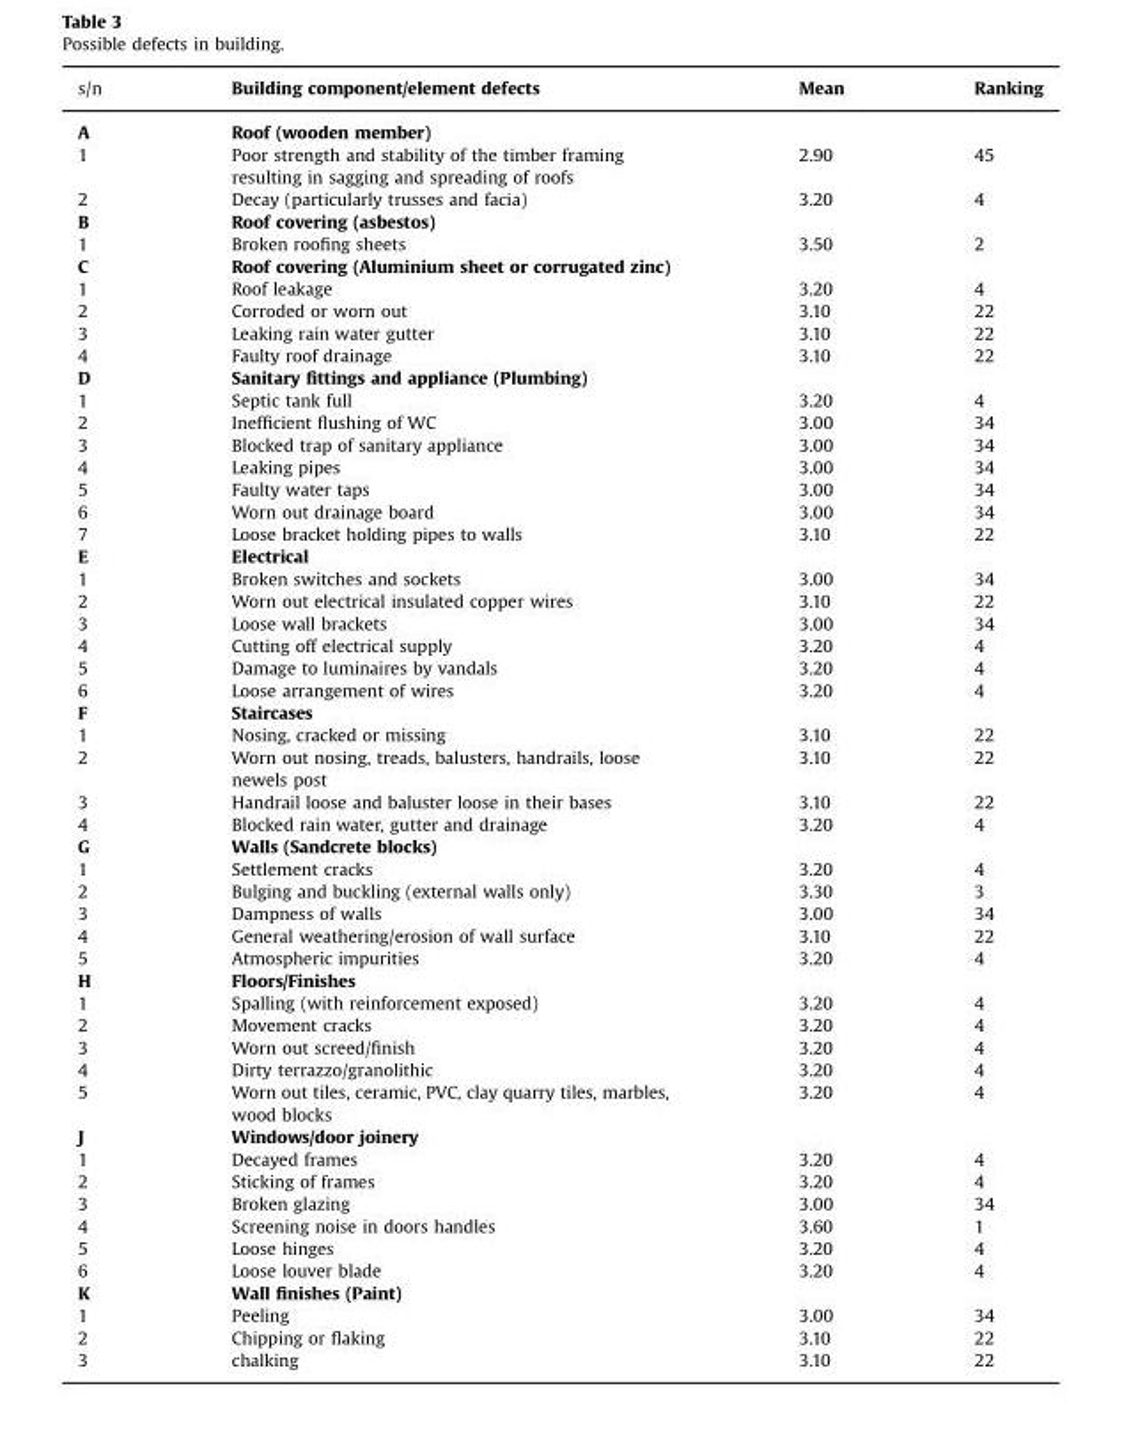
<table><thead><tr><td>s/n</td><td>Building component/element defects</td><td>Mean</td><td>Ranking</td></tr></thead><tbody><tr><td>A</td><td colspan="3">Roof (wooden member)</td></tr><tr><td>1</td><td>Poor strength and stability of the timber framing resulting in sagging and spreading of roofs</td><td>2.90</td><td>45</td></tr><tr><td>2</td><td>Decay (particularly trusses and facia)</td><td>3.20</td><td>4</td></tr><tr><td>B</td><td colspan="3">Roof covering (asbestos)</td></tr><tr><td>1</td><td>Broken roofing sheets</td><td>3.50</td><td>2</td></tr><tr><td>C</td><td colspan="3">Roof covering (Aluminium sheet or corrugated zinc)</td></tr><tr><td>1</td><td>Roof leakage</td><td>3.20</td><td>4</td></tr><tr><td>2</td><td>Corroded or worn out</td><td>3.10</td><td>22</td></tr><tr><td>3</td><td>Leaking rain water gutter</td><td>3.10</td><td>22</td></tr><tr><td>4</td><td>Faulty roof drainage</td><td>3.10</td><td>22</td></tr><tr><td>D</td><td colspan="3">Sanitary fittings and appliance (Plumbing)</td></tr><tr><td>1</td><td>Septic tank full</td><td>3.20</td><td>4</td></tr><tr><td>2</td><td>Inefficient flushing of WC</td><td>3.00</td><td>34</td></tr><tr><td>3</td><td>Blocked trap of sanitary appliance</td><td>3.00</td><td>34</td></tr><tr><td>4</td><td>Leaking pipes</td><td>3.00</td><td>34</td></tr><tr><td>5</td><td>Faulty water taps</td><td>3.00</td><td>34</td></tr><tr><td>6</td><td>Worn out drainage board</td><td>3.00</td><td>34</td></tr><tr><td>7</td><td>Loose bracket holding pipes to walls</td><td>3.10</td><td>22</td></tr><tr><td>E</td><td colspan="3">Electrical</td></tr><tr><td>1</td><td>Broken switches and sockets</td><td>3.00</td><td>34</td></tr><tr><td>2</td><td>Worn out electrical insulated copper wires</td><td>3.10</td><td>22</td></tr><tr><td>3</td><td>Loose wall brackets</td><td>3.00</td><td>34</td></tr><tr><td>4</td><td>Cutting off electrical supply</td><td>3.20</td><td>4</td></tr><tr><td>5</td><td>Damage to luminaires by vandals</td><td>3.20</td><td>4</td></tr><tr><td>6</td><td>Loose arrangement of wires</td><td>3.20</td><td>4</td></tr><tr><td>F</td><td colspan="3">Staircases</td></tr><tr><td>1</td><td>Nosing, cracked or missing</td><td>3.10</td><td>22</td></tr><tr><td>2</td><td>Worn out nosing, treads, balusters, handrails, loose newels post</td><td>3.10</td><td>22</td></tr><tr><td>3</td><td>Handrail loose and baluster loose in their bases</td><td>3.10</td><td>22</td></tr><tr><td>4</td><td>Blocked rain water, gutter and drainage</td><td>3.20</td><td>4</td></tr><tr><td>G</td><td colspan="3">Walls (Sandcrete blocks)</td></tr><tr><td>1</td><td>Settlement cracks</td><td>3.20</td><td>4</td></tr><tr><td>2</td><td>Bulging and buckling (external walls only)</td><td>3.30</td><td>3</td></tr><tr><td>3</td><td>Dampness of walls</td><td>3.00</td><td>34</td></tr><tr><td>4</td><td>General weathering/erosion of wall surface</td><td>3.10</td><td>22</td></tr><tr><td>5</td><td>Atmospheric impurities</td><td>3.20</td><td>4</td></tr><tr><td>H</td><td colspan="3">Floors/Finishes</td></tr><tr><td>1</td><td>Spalling (with reinforcement exposed)</td><td>3.20</td><td>4</td></tr><tr><td>2</td><td>Movement cracks</td><td>3.20</td><td>4</td></tr><tr><td>3</td><td>Worn out screed/finish</td><td>3.20</td><td>4</td></tr><tr><td>4</td><td>Dirty terrazzo/granolithic</td><td>3.20</td><td>4</td></tr><tr><td>5</td><td>Worn out tiles, ceramic, PVC, clay quarry tiles, marbles, wood blocks</td><td>3.20</td><td>4</td></tr><tr><td>J</td><td colspan="3">Windows/door joinery</td></tr><tr><td>1</td><td>Decayed frames</td><td>3.20</td><td>4</td></tr><tr><td>2</td><td>Sticking of frames</td><td>3.20</td><td>4</td></tr><tr><td>3</td><td>Broken glazing</td><td>3.00</td><td>34</td></tr><tr><td>4</td><td>Screening noise in doors handles</td><td>3.60</td><td>1</td></tr><tr><td>5</td><td>Loose hinges</td><td>3.20</td><td>4</td></tr><tr><td>6</td><td>Loose louver blade</td><td>3.20</td><td>4</td></tr><tr><td>K</td><td colspan="3">Wall finishes (Paint)</td></tr><tr><td>1</td><td>Peeling</td><td>3.00</td><td>34</td></tr><tr><td>2</td><td>Chipping or flaking</td><td>3.10</td><td>22</td></tr><tr><td>3</td><td>chalking</td><td>3.10</td><td>22</td></tr></tbody></table>